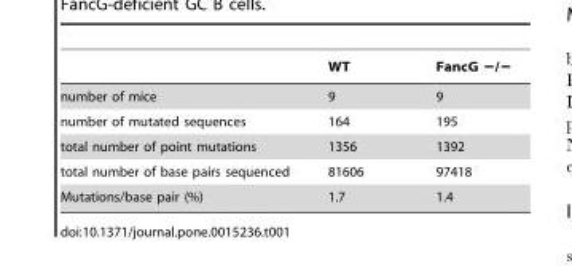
<table><thead><tr><td></td><td>WT</td><td>FancG −/−</td></tr></thead><tbody><tr><td>number of mice</td><td>9</td><td>9</td></tr><tr><td>number of mutated sequences</td><td>164</td><td>195</td></tr><tr><td>total number of point mutations</td><td>1356</td><td>1392</td></tr><tr><td>total number of base pairs sequenced</td><td>81606</td><td>97418</td></tr><tr><td>Mutations/base pair (%)</td><td>1.7</td><td>1.4</td></tr></tbody></table>